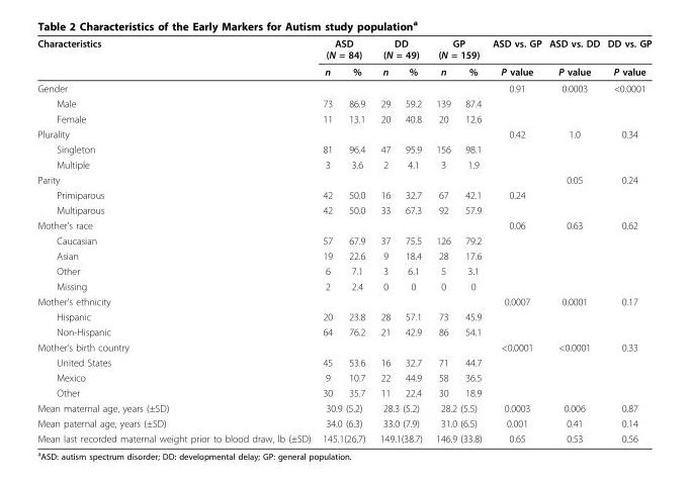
<table><thead><tr><td rowspan="2">Characteristics</td><td colspan="2">ASD (N = 84)</td><td colspan="2">DD (N = 49)</td><td colspan="2">GP (N = 159)</td><td rowspan="2">ASD vs. GP P value</td><td rowspan="2">ASD vs. DD P value</td><td rowspan="2">DD vs. GP P value</td></tr><tr><td>n</td><td>%</td><td>n</td><td>%</td><td>n</td><td>%</td></tr></thead><tbody><tr><td>Gender</td><td></td><td></td><td></td><td></td><td></td><td></td><td>0.91</td><td>0.0003</td><td>&lt;0.0001</td></tr><tr><td>Male</td><td>73</td><td>86.9</td><td>29</td><td>59.2</td><td>139</td><td>87.4</td><td></td><td></td><td></td></tr><tr><td>Female</td><td>11</td><td>13.1</td><td>20</td><td>40.8</td><td>20</td><td>12.6</td><td></td><td></td><td></td></tr><tr><td>Plurality</td><td></td><td></td><td></td><td></td><td></td><td></td><td>0.42</td><td>1.0</td><td>0.34</td></tr><tr><td>Singleton</td><td>81</td><td>96.4</td><td>47</td><td>95.9</td><td>156</td><td>98.1</td><td></td><td></td><td></td></tr><tr><td>Multiple</td><td>3</td><td>3.6</td><td>2</td><td>4.1</td><td>3</td><td>1.9</td><td></td><td></td><td></td></tr><tr><td>Parity</td><td></td><td></td><td></td><td></td><td></td><td></td><td></td><td>0.05</td><td>0.24</td></tr><tr><td>Primiparous</td><td>42</td><td>50.0</td><td>16</td><td>32.7</td><td>67</td><td>42.1</td><td>0.24</td><td></td><td></td></tr><tr><td>Multiparous</td><td>42</td><td>50.0</td><td>33</td><td>67.3</td><td>92</td><td>57.9</td><td></td><td></td><td></td></tr><tr><td>Mother’s race</td><td></td><td></td><td></td><td></td><td></td><td></td><td>0.06</td><td>0.63</td><td>0.62</td></tr><tr><td>Caucasian</td><td>57</td><td>67.9</td><td>37</td><td>75.5</td><td>126</td><td>79.2</td><td></td><td></td><td></td></tr><tr><td>Asian</td><td>19</td><td>22.6</td><td>9</td><td>18.4</td><td>28</td><td>17.6</td><td></td><td></td><td></td></tr><tr><td>Other</td><td>6</td><td>7.1</td><td>3</td><td>6.1</td><td>5</td><td>3.1</td><td></td><td></td><td></td></tr><tr><td>Missing</td><td>2</td><td>2.4</td><td>0</td><td>0</td><td>0</td><td>0</td><td></td><td></td><td></td></tr><tr><td>Mother’s ethnicity</td><td></td><td></td><td></td><td></td><td></td><td></td><td>0.0007</td><td>0.0001</td><td>0.17</td></tr><tr><td>Hispanic</td><td>20</td><td>23.8</td><td>28</td><td>57.1</td><td>73</td><td>45.9</td><td></td><td></td><td></td></tr><tr><td>Non-Hispanic</td><td>64</td><td>76.2</td><td>21</td><td>42.9</td><td>86</td><td>54.1</td><td></td><td></td><td></td></tr><tr><td>Mother’s birth country</td><td></td><td></td><td></td><td></td><td></td><td></td><td>&lt;0.0001</td><td>&lt;0.0001</td><td>0.33</td></tr><tr><td>United States</td><td>45</td><td>53.6</td><td>16</td><td>32.7</td><td>71</td><td>44.7</td><td></td><td></td><td></td></tr><tr><td>Mexico</td><td>9</td><td>10.7</td><td>22</td><td>44.9</td><td>58</td><td>36.5</td><td></td><td></td><td></td></tr><tr><td>Other</td><td>30</td><td>35.7</td><td>11</td><td>22.4</td><td>30</td><td>18.9</td><td></td><td></td><td></td></tr><tr><td>Mean maternal age, years (±SD)</td><td colspan="2">30.9 (5.2)</td><td colspan="2">28.3 (5.2)</td><td colspan="2">28.2 (5.5)</td><td>0.0003</td><td>0.006</td><td>0.87</td></tr><tr><td>Mean paternal age, years (±SD)</td><td colspan="2">34.0 (6.3)</td><td colspan="2">33.0 (7.9)</td><td colspan="2">31.0 (6.5)</td><td>0.001</td><td>0.41</td><td>0.14</td></tr><tr><td>Mean last recorded maternal weight prior to blood draw, lb (±SD)</td><td colspan="2">145.1(26.7)</td><td colspan="2">149.1(38.7)</td><td colspan="2">146.9 (33.8)</td><td>0.65</td><td>0.53</td><td>0.56</td></tr></tbody></table>